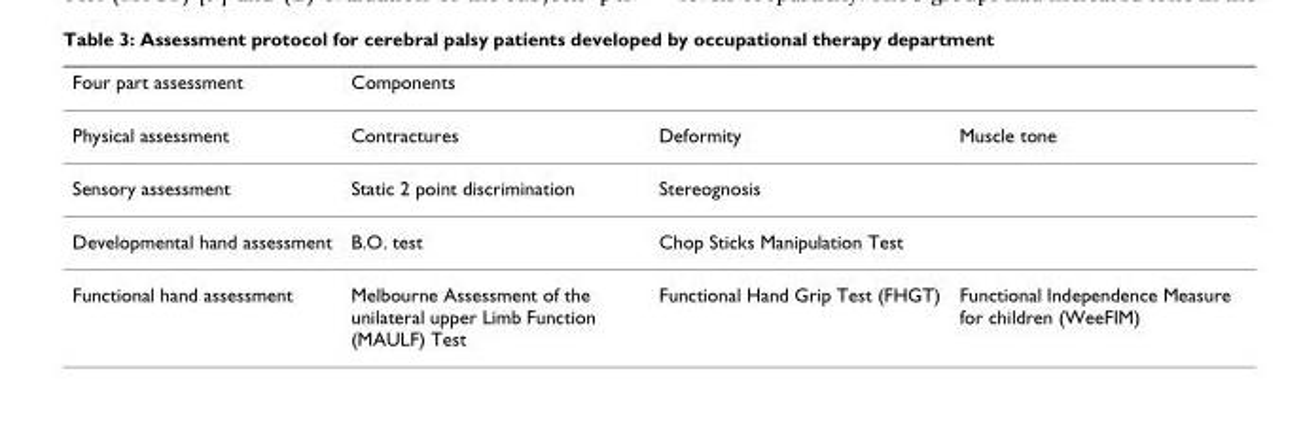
<table><thead><tr><td>Four part assessment</td><td>Components</td><td></td><td></td></tr></thead><tbody><tr><td>Physical assessment</td><td>Contractures</td><td>Deformity</td><td>Muscle tone</td></tr><tr><td>Sensory assessment</td><td>Static 2 point discrimination</td><td>Stereognosis</td><td></td></tr><tr><td>Developmental hand assessment</td><td>B.O. test</td><td>Chop Sticks Manipulation Test</td><td></td></tr><tr><td>Functional hand assessment</td><td>Melbourne Assessment of the unilateral upper Limb Function (MAULF) Test</td><td>Functional Hand Grip Test (FHGT)</td><td>Functional Independence Measure for children (WeeFIM)</td></tr></tbody></table>